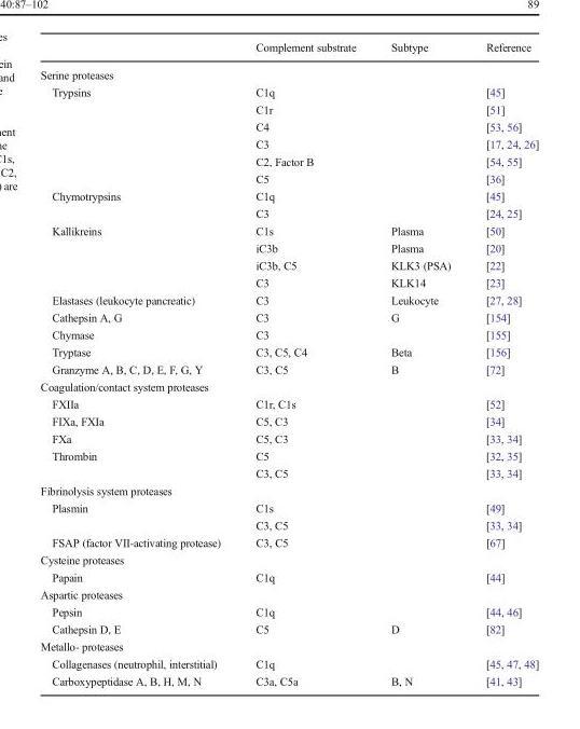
<table><thead><tr><td></td><td>Complement substrate</td><td>Subtype</td><td>Reference</td></tr></thead><tbody><tr><td colspan="4">Serine proteases</td></tr><tr><td rowspan="6">Trypsins</td><td>C1q</td><td></td><td>[45]</td></tr><tr><td>C1r</td><td></td><td>[51]</td></tr><tr><td>C4</td><td></td><td>[53, 56]</td></tr><tr><td>C3</td><td></td><td>[17, 24, 26]</td></tr><tr><td>C2, Factor B</td><td></td><td>[54, 55]</td></tr><tr><td>C5</td><td></td><td>[36]</td></tr><tr><td rowspan="2">Chymotrypsins</td><td>C1q</td><td></td><td>[45]</td></tr><tr><td>C3</td><td></td><td>[24, 25]</td></tr><tr><td rowspan="4">Kallikreins</td><td>C1s</td><td>Plasma</td><td>[50]</td></tr><tr><td>iC3b</td><td>Plasma</td><td>[20]</td></tr><tr><td>iC3b, C5</td><td>KLK3 (PSA)</td><td>[22]</td></tr><tr><td>C3</td><td>KLK14</td><td>[23]</td></tr><tr><td>Elastases (leukocyte pancreatic)</td><td>C3</td><td>Leukocyte</td><td>[27, 28]</td></tr><tr><td>Cathepsin A, G</td><td>C3</td><td>G</td><td>[154]</td></tr><tr><td>Chymase</td><td>C3</td><td></td><td>[155]</td></tr><tr><td>Tryptase</td><td>C3, C5, C4</td><td>Beta</td><td>[156]</td></tr><tr><td>Granzyme A, B, C, D, E, F, G, Y</td><td>C3, C5</td><td>B</td><td>[72]</td></tr><tr><td colspan="4">Coagulation/contact system proteases</td></tr><tr><td>FXIIa</td><td>C1r, C1s</td><td></td><td>[52]</td></tr><tr><td>FIXa, FXIa</td><td>C5, C3</td><td></td><td>[34]</td></tr><tr><td>FXa</td><td>C5, C3</td><td></td><td>[33, 34]</td></tr><tr><td rowspan="2">Thrombin</td><td>C5</td><td></td><td>[32, 35]</td></tr><tr><td>C3, C5</td><td></td><td>[33, 34]</td></tr><tr><td colspan="4">Fibrinolysis system proteases</td></tr><tr><td rowspan="2">Plasmin</td><td>C1s</td><td></td><td>[49]</td></tr><tr><td>C3, C5</td><td></td><td>[33, 34]</td></tr><tr><td>FSAP (factor VII-activating protease)</td><td>C3, C5</td><td></td><td>[67]</td></tr><tr><td colspan="4">Cysteine proteases</td></tr><tr><td>Papain</td><td>C1q</td><td></td><td>[44]</td></tr><tr><td colspan="4">Aspartic proteases</td></tr><tr><td>Pepsin</td><td>C1q</td><td></td><td>[44, 46]</td></tr><tr><td>Cathepsin D, E</td><td>C5</td><td>D</td><td>[82]</td></tr><tr><td colspan="4">Metallo- proteases</td></tr><tr><td>Collagenases (neutrophil, interstitial)</td><td>C1q</td><td></td><td>[45, 47, 48]</td></tr><tr><td>Carboxypeptidase A, B, H, M, N</td><td>C3a, C5a</td><td>B, N</td><td>[41, 43]</td></tr></tbody></table>